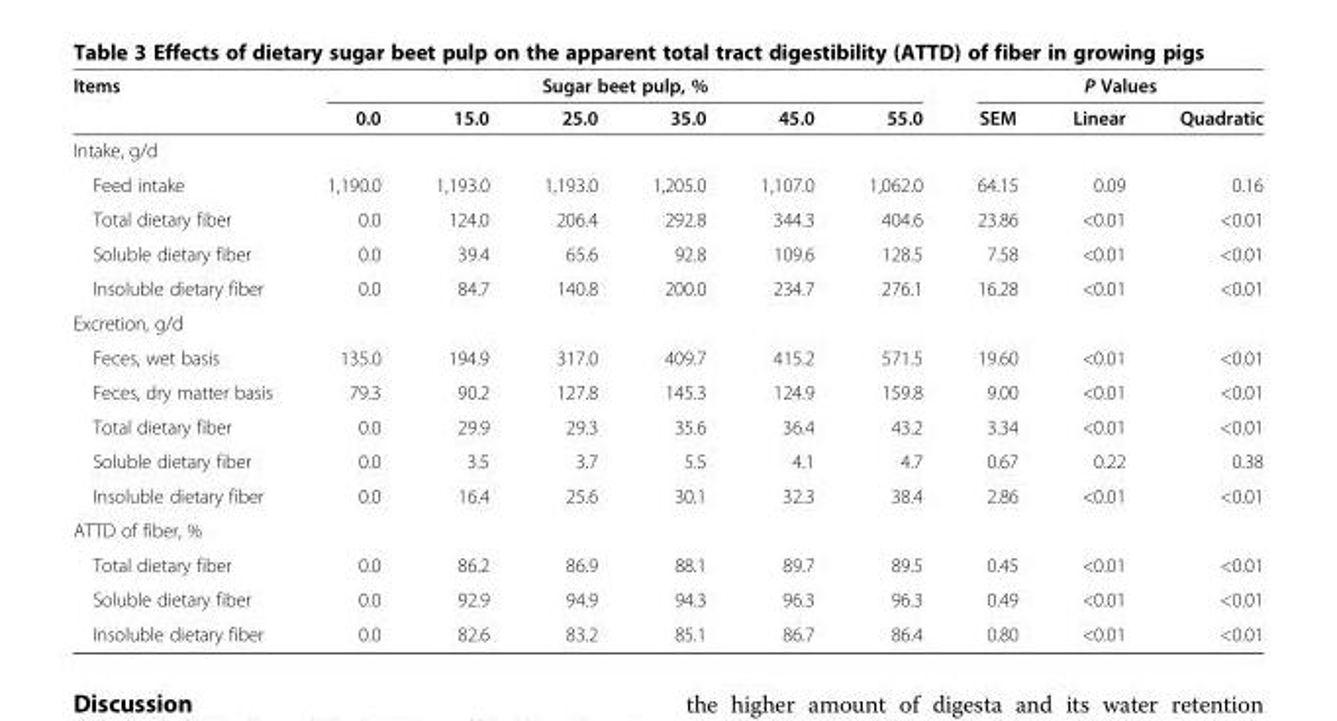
<table><thead><tr><td rowspan="2">Items</td><td colspan="6">Sugar beet pulp, %</td><td colspan="3">P Values</td></tr><tr><td>0.0</td><td>15.0</td><td>25.0</td><td>35.0</td><td>45.0</td><td>55.0</td><td>SEM</td><td>Linear</td><td>Quadratic</td></tr></thead><tbody><tr><td colspan="10">Intake, g/d</td></tr><tr><td>Feed intake</td><td>1,190.0</td><td>1,193.0</td><td>1,193.0</td><td>1,205.0</td><td>1,107.0</td><td>1,062.0</td><td>64.15</td><td>0.09</td><td>0.16</td></tr><tr><td>Total dietary fiber</td><td>0.0</td><td>124.0</td><td>206.4</td><td>292.8</td><td>344.3</td><td>404.6</td><td>23.86</td><td>&lt;0.01</td><td>&lt;0.01</td></tr><tr><td>Soluble dietary fiber</td><td>0.0</td><td>39.4</td><td>65.6</td><td>92.8</td><td>109.6</td><td>128.5</td><td>7.58</td><td>&lt;0.01</td><td>&lt;0.01</td></tr><tr><td>Insoluble dietary fiber</td><td>0.0</td><td>84.7</td><td>140.8</td><td>200.0</td><td>234.7</td><td>276.1</td><td>16.28</td><td>&lt;0.01</td><td>&lt;0.01</td></tr><tr><td colspan="10">Excretion, g/d</td></tr><tr><td>Feces, wet basis</td><td>135.0</td><td>194.9</td><td>317.0</td><td>409.7</td><td>415.2</td><td>571.5</td><td>19.60</td><td>&lt;0.01</td><td>&lt;0.01</td></tr><tr><td>Feces, dry matter basis</td><td>79.3</td><td>90.2</td><td>127.8</td><td>145.3</td><td>124.9</td><td>159.8</td><td>9.00</td><td>&lt;0.01</td><td>&lt;0.01</td></tr><tr><td>Total dietary fiber</td><td>0.0</td><td>29.9</td><td>29.3</td><td>35.6</td><td>36.4</td><td>43.2</td><td>3.34</td><td>&lt;0.01</td><td>&lt;0.01</td></tr><tr><td>Soluble dietary fiber</td><td>0.0</td><td>3.5</td><td>3.7</td><td>5.5</td><td>4.1</td><td>4.7</td><td>0.67</td><td>0.22</td><td>0.38</td></tr><tr><td>Insoluble dietary fiber</td><td>0.0</td><td>16.4</td><td>25.6</td><td>30.1</td><td>32.3</td><td>38.4</td><td>2.86</td><td>&lt;0.01</td><td>&lt;0.01</td></tr><tr><td colspan="10">ATTD of fiber, %</td></tr><tr><td>Total dietary fiber</td><td>0.0</td><td>86.2</td><td>86.9</td><td>88.1</td><td>89.7</td><td>89.5</td><td>0.45</td><td>&lt;0.01</td><td>&lt;0.01</td></tr><tr><td>Soluble dietary fiber</td><td>0.0</td><td>92.9</td><td>94.9</td><td>94.3</td><td>96.3</td><td>96.3</td><td>0.49</td><td>&lt;0.01</td><td>&lt;0.01</td></tr><tr><td>Insoluble dietary fiber</td><td>0.0</td><td>82.6</td><td>83.2</td><td>85.1</td><td>86.7</td><td>86.4</td><td>0.80</td><td>&lt;0.01</td><td>&lt;0.01</td></tr></tbody></table>